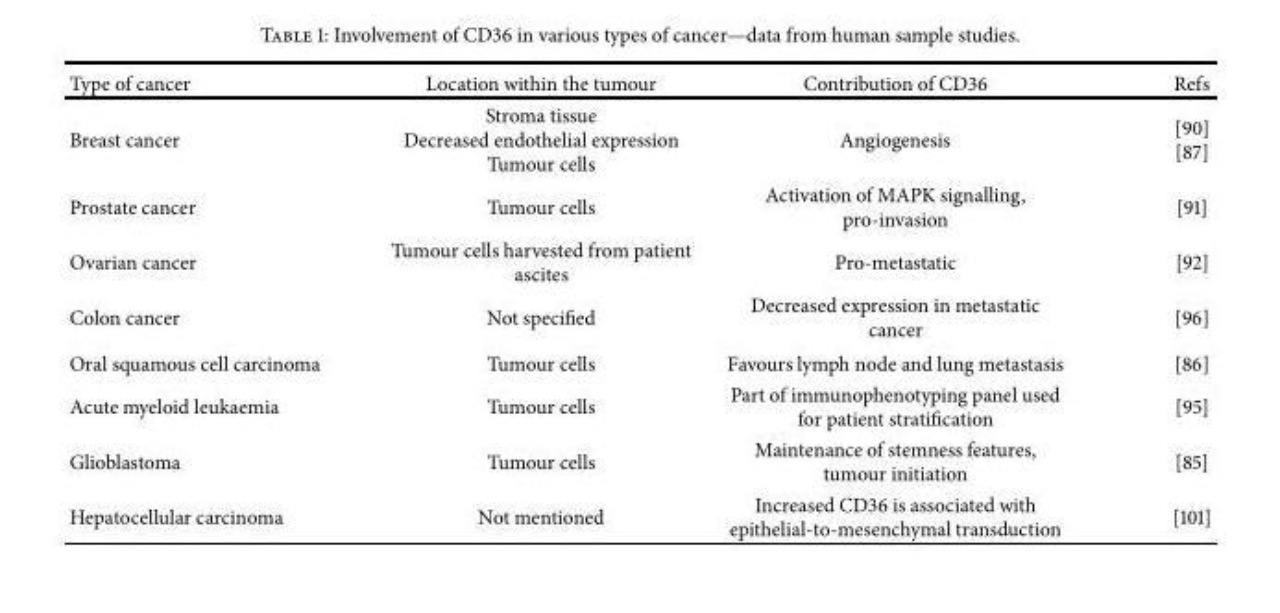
<table><thead><tr><td>Type of cancer</td><td>Location within the tumour</td><td>Contribution of CD36</td><td>Refs</td></tr></thead><tbody><tr><td>Breast cancer</td><td>Stroma tissue Decreased endothelial expression Tumour cells</td><td>Angiogenesis</td><td>[90] [87]</td></tr><tr><td>Prostate cancer</td><td>Tumour cells</td><td>Activation of MAPK signalling, pro-invasion</td><td>[91]</td></tr><tr><td>Ovarian cancer</td><td>Tumour cells harvested from patient ascites</td><td>Pro-metastatic</td><td>[92]</td></tr><tr><td>Colon cancer</td><td>Not specified</td><td>Decreased expression in metastatic cancer</td><td>[96]</td></tr><tr><td>Oral squamous cell carcinoma</td><td>Tumour cells</td><td>Favours lymph node and lung metastasis</td><td>[86]</td></tr><tr><td>Acute myeloid leukaemia</td><td>Tumour cells</td><td>Part of immunophenotyping panel used for patient stratification</td><td>[95]</td></tr><tr><td>Glioblastoma</td><td>Tumour cells</td><td>Maintenance of stemness features, tumour initiation</td><td>[85]</td></tr><tr><td>Hepatocellular carcinoma</td><td>Not mentioned</td><td>Increased CD36 is associated with epithelial-to-mesenchymal transduction</td><td>[101]</td></tr></tbody></table>